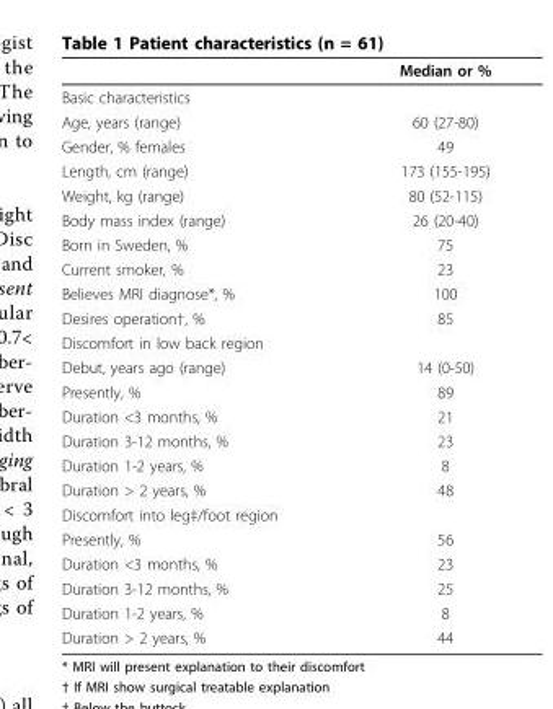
<table><thead><tr><td></td><td>Median or %</td></tr></thead><tbody><tr><td colspan="2">Basic characteristics</td></tr><tr><td>Age, years (range)</td><td>60 (27-80)</td></tr><tr><td>Gender, % females</td><td>49</td></tr><tr><td>Length, cm (range)</td><td>173 (155-195)</td></tr><tr><td>Weight, kg (range)</td><td>80 (52-115)</td></tr><tr><td>Body mass index (range)</td><td>26 (20-40)</td></tr><tr><td>Born in Sweden, %</td><td>75</td></tr><tr><td>Current smoker, %</td><td>23</td></tr><tr><td>Believes MRI diagnose*, %</td><td>100</td></tr><tr><td>Desires operation†, %</td><td>85</td></tr><tr><td colspan="2">Discomfort in low back region</td></tr><tr><td>Debut, years ago (range)</td><td>14 (0-50)</td></tr><tr><td>Presently, %</td><td>89</td></tr><tr><td>Duration &lt;3 months, %</td><td>21</td></tr><tr><td>Duration 3-12 months, %</td><td>23</td></tr><tr><td>Duration 1-2 years, %</td><td>8</td></tr><tr><td>Duration &gt; 2 years, %</td><td>48</td></tr><tr><td colspan="2">Discomfort into leg‡/foot region</td></tr><tr><td>Presently, %</td><td>56</td></tr><tr><td>Duration &lt;3 months, %</td><td>23</td></tr><tr><td>Duration 3-12 months, %</td><td>25</td></tr><tr><td>Duration 1-2 years, %</td><td>8</td></tr><tr><td>Duration &gt; 2 years, %</td><td>44</td></tr></tbody></table>